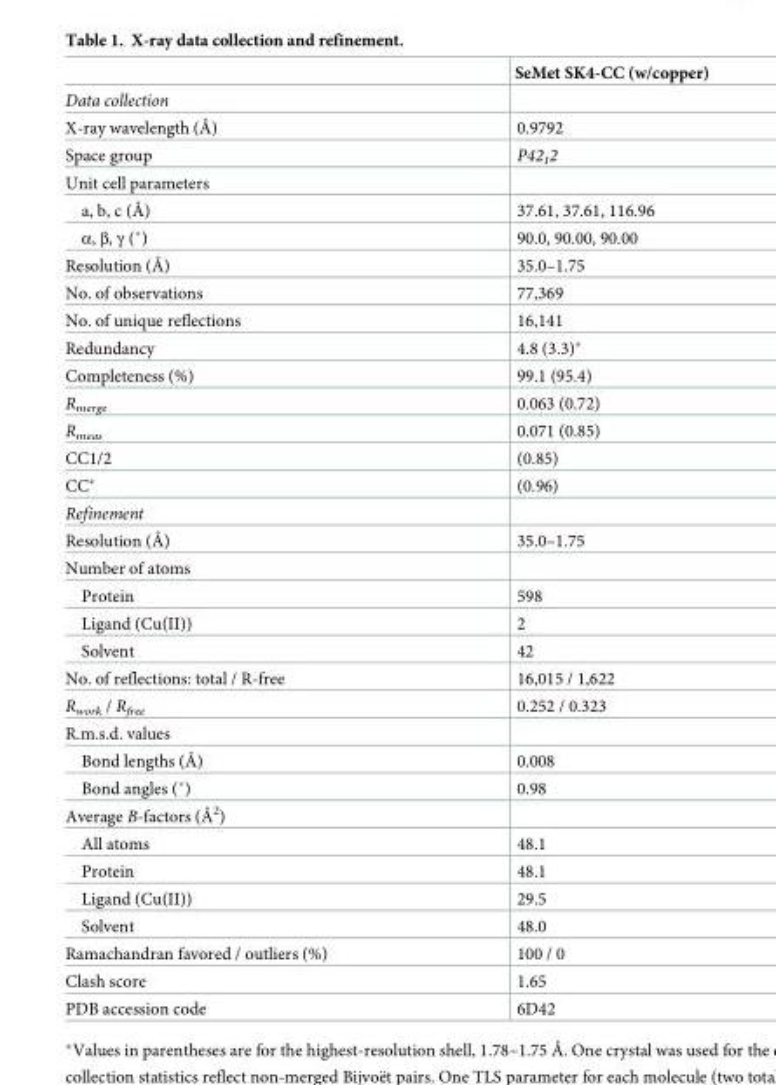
<table><thead><tr><td></td><td>SeMet SK4-CC (w/copper)</td></tr></thead><tbody><tr><td colspan="2">Data collection</td></tr><tr><td>X-ray wavelength (Å)</td><td>0.9792</td></tr><tr><td>Space group</td><td>P42<sub>1</sub>2</td></tr><tr><td colspan="2">Unit cell parameters</td></tr><tr><td>a, b, c (Å)</td><td>37.61, 37.61, 116.96</td></tr><tr><td>α, β, γ (˚)</td><td>90.0, 90.00, 90.00</td></tr><tr><td>Resolution (Å)</td><td>35.0–1.75</td></tr><tr><td>No. of observations</td><td>77,369</td></tr><tr><td>No. of unique reflections</td><td>16,141</td></tr><tr><td>Redundancy</td><td>4.8 (3.3)*</td></tr><tr><td>Completeness (%)</td><td>99.1 (95.4)</td></tr><tr><td>R<sub>merge</sub></td><td>0.063 (0.72)</td></tr><tr><td>R<sub>meas</sub></td><td>0.071 (0.85)</td></tr><tr><td>CC1/2</td><td>(0.85)</td></tr><tr><td>CC*</td><td>(0.96)</td></tr><tr><td colspan="2">Refinement</td></tr><tr><td>Resolution (Å)</td><td>35.0–1.75</td></tr><tr><td colspan="2">Number of atoms</td></tr><tr><td>Protein</td><td>598</td></tr><tr><td>Ligand (Cu(II))</td><td>2</td></tr><tr><td>Solvent</td><td>42</td></tr><tr><td>No. of reflections: total / R-free</td><td>16,015 / 1,622</td></tr><tr><td>R<sub>work</sub> / R<sub>free</sub></td><td>0.252 / 0.323</td></tr><tr><td colspan="2">R.m.s.d. values</td></tr><tr><td>Bond lengths (Å)</td><td>0.008</td></tr><tr><td>Bond angles (˚)</td><td>0.98</td></tr><tr><td colspan="2">Average B-factors (Å<sup>2</sup>)</td></tr><tr><td>All atoms</td><td>48.1</td></tr><tr><td>Protein</td><td>48.1</td></tr><tr><td>Ligand (Cu(II))</td><td>29.5</td></tr><tr><td>Solvent</td><td>48.0</td></tr><tr><td>Ramachandran favored / outliers (%)</td><td>100 / 0</td></tr><tr><td>Clash score</td><td>1.65</td></tr><tr><td>PDB accession code</td><td>6D42</td></tr></tbody></table>